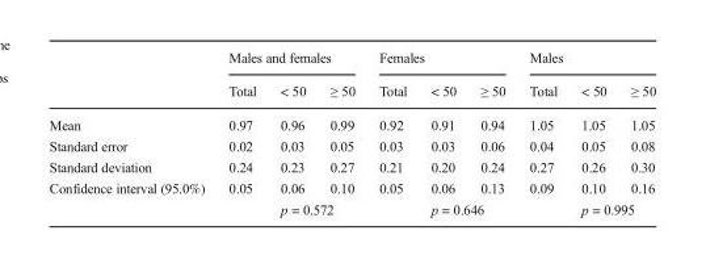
<table><thead><tr><td rowspan="2"></td><td colspan="3">Males and females</td><td colspan="3">Females</td><td colspan="3">Males</td></tr><tr><td>Total</td><td>&lt; 50</td><td>≥ 50</td><td>Total</td><td>&lt; 50</td><td>≥ 50</td><td>Total</td><td>&lt; 50</td><td>≥ 50</td></tr></thead><tbody><tr><td>Mean</td><td>0.97</td><td>0.96</td><td>0.99</td><td>0.92</td><td>0.91</td><td>0.94</td><td>1.05</td><td>1.05</td><td>1.05</td></tr><tr><td>Standard error</td><td>0.02</td><td>0.03</td><td>0.05</td><td>0.03</td><td>0.03</td><td>0.06</td><td>0.04</td><td>0.05</td><td>0.08</td></tr><tr><td>Standard deviation</td><td>0.24</td><td>0.23</td><td>0.27</td><td>0.21</td><td>0.20</td><td>0.24</td><td>0.27</td><td>0.26</td><td>0.30</td></tr><tr><td rowspan="2">Confidence interval (95.0%)</td><td>0.05</td><td>0.06</td><td>0.10</td><td>0.05</td><td>0.06</td><td>0.13</td><td>0.09</td><td>0.10</td><td>0.16</td></tr><tr><td></td><td colspan="2">p = 0.572</td><td></td><td colspan="2">p = 0.646</td><td></td><td colspan="2">p = 0.995</td></tr></tbody></table>